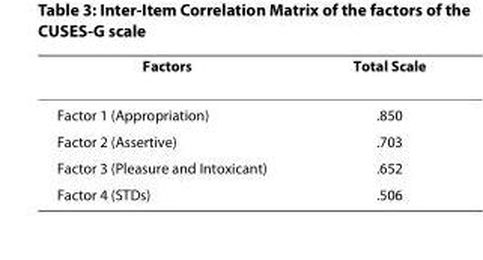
<table><thead><tr><td>Factors</td><td>Total Scale</td></tr></thead><tbody><tr><td>Factor 1 (Appropriation)</td><td>.850</td></tr><tr><td>Factor 2 (Assertive)</td><td>.703</td></tr><tr><td>Factor 3 (Pleasure and Intoxicant)</td><td>.652</td></tr><tr><td>Factor 4 (STDs)</td><td>.506</td></tr></tbody></table>